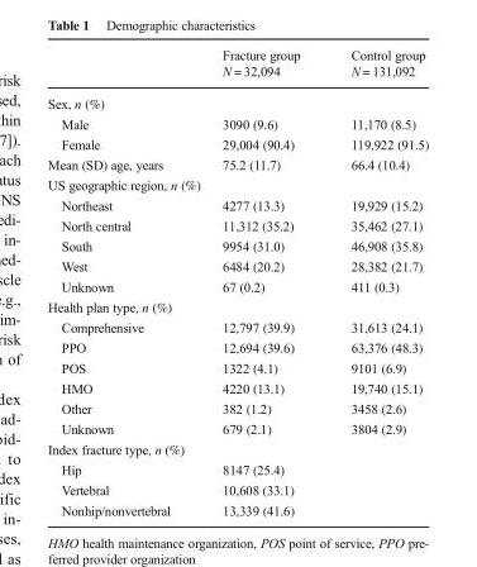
<table><thead><tr><td rowspan="2"></td><td rowspan="2">Fracture group N = 32,094</td><td rowspan="2">Control group N = 131,092</td></tr><tr></tr></thead><tbody><tr><td colspan="3">Sex, n (%)</td></tr><tr><td>Male</td><td>3090 (9.6)</td><td>11,170 (8.5)</td></tr><tr><td>Female</td><td>29,004 (90.4)</td><td>119,922 (91.5)</td></tr><tr><td>Mean (SD) age, years</td><td>75.2 (11.7)</td><td>66.4 (10.4)</td></tr><tr><td colspan="3">US geographic region, n (%)</td></tr><tr><td>Northeast</td><td>4277 (13.3)</td><td>19,929 (15.2)</td></tr><tr><td>North central</td><td>11,312 (35.2)</td><td>35,462 (27.1)</td></tr><tr><td>South</td><td>9954 (31.0)</td><td>46,908 (35.8)</td></tr><tr><td>West</td><td>6484 (20.2)</td><td>28,382 (21.7)</td></tr><tr><td>Unknown</td><td>67 (0.2)</td><td>411 (0.3)</td></tr><tr><td colspan="3">Health plan type, n (%)</td></tr><tr><td>Comprehensive</td><td>12,797 (39.9)</td><td>31,613 (24.1)</td></tr><tr><td>PPO</td><td>12,694 (39.6)</td><td>63,376 (48.3)</td></tr><tr><td>POS</td><td>1322 (4.1)</td><td>9101 (6.9)</td></tr><tr><td>HMO</td><td>4220 (13.1)</td><td>19,740 (15.1)</td></tr><tr><td>Other</td><td>382 (1.2)</td><td>3458 (2.6)</td></tr><tr><td>Unknown</td><td>679 (2.1)</td><td>3804 (2.9)</td></tr><tr><td colspan="3">Index fracture type, n (%)</td></tr><tr><td>Hip</td><td>8147 (25.4)</td><td></td></tr><tr><td>Vertebral</td><td>10,608 (33.1)</td><td></td></tr><tr><td>Nonhip/nonvertebral</td><td>13,339 (41.6)</td><td></td></tr></tbody></table>